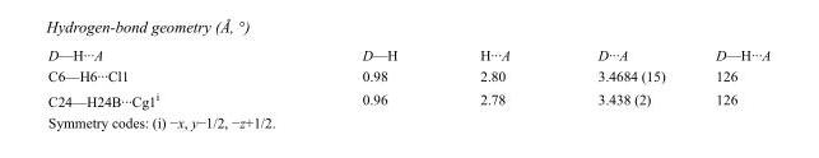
<table><tbody><tr><td>D—H···A</td><td>D—H</td><td>H···A</td><td>D···A</td><td>D—H···A</td></tr><tr><td>C6—H6···Cl1</td><td>0.98</td><td>2.80</td><td>3.4684 (15)</td><td>126</td></tr><tr><td>C24—H24B···Cg1<sup>i</sup></td><td>0.96</td><td>2.78</td><td>3.438 (2)</td><td>126</td></tr></tbody></table>